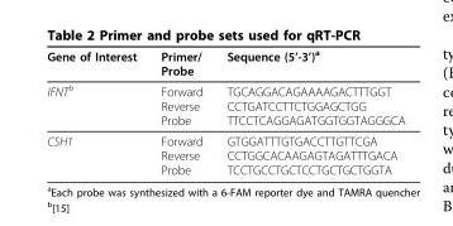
<table><thead><tr><td>Gene of Interest</td><td>Primer/ Probe</td><td>Sequence (5’-3’)<sup>a</sup></td></tr></thead><tbody><tr><td>IFNT<sup>b</sup></td><td>Forward Reverse Probe</td><td>TGCAGGACAGAAAAGACTTTGGT CCTGATCCTTCTGGAGCTGG TTCCTCAGGAGATGGTGGTAGGGCA</td></tr><tr><td>CSH1</td><td>Forward Reverse Probe</td><td>GTGGATTTGTGACCTTGTTCGA CCTGGCACAAGAGTAGATTTGACA TCCTGCCTGCTCCTGCTGCTGGTA</td></tr></tbody></table>